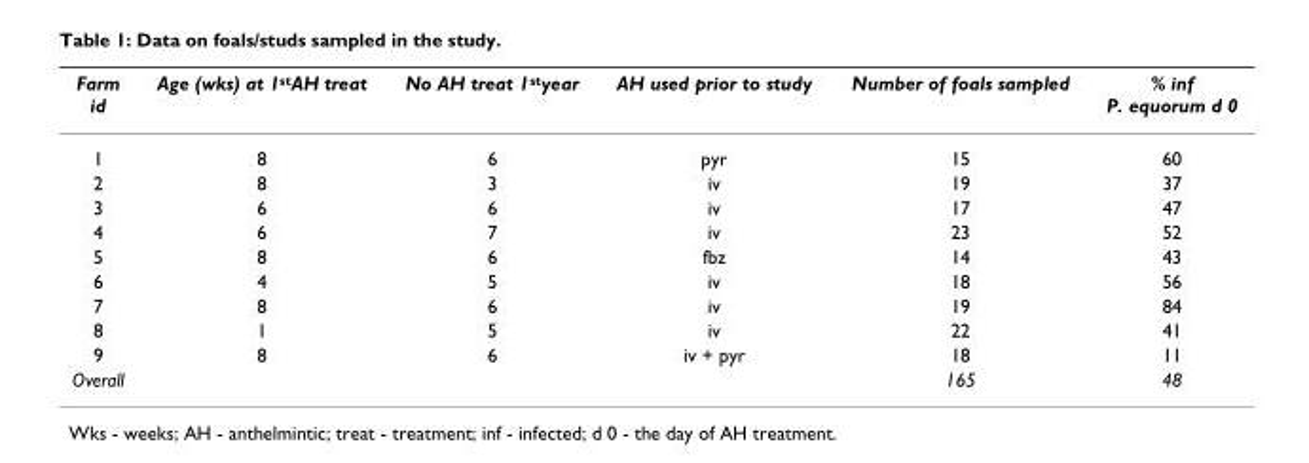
<table><thead><tr><td>Farm id</td><td>Age (wks) at 1<sup>st</sup>AH treat</td><td>No AH treat 1<sup>st</sup>year</td><td>AH used prior to study</td><td>Number of foals sampled</td><td>% inf P. equorum d 0</td></tr></thead><tbody><tr><td>1</td><td>8</td><td>6</td><td>pyr</td><td>15</td><td>60</td></tr><tr><td>2</td><td>8</td><td>3</td><td>iv</td><td>19</td><td>37</td></tr><tr><td>3</td><td>6</td><td>6</td><td>iv</td><td>17</td><td>47</td></tr><tr><td>4</td><td>6</td><td>7</td><td>iv</td><td>23</td><td>52</td></tr><tr><td>5</td><td>8</td><td>6</td><td>fbz</td><td>14</td><td>43</td></tr><tr><td>6</td><td>4</td><td>5</td><td>iv</td><td>18</td><td>56</td></tr><tr><td>7</td><td>8</td><td>6</td><td>iv</td><td>19</td><td>84</td></tr><tr><td>8</td><td>1</td><td>5</td><td>iv</td><td>22</td><td>41</td></tr><tr><td>9</td><td>8</td><td>6</td><td>iv + pyr</td><td>18</td><td>11</td></tr><tr><td>Overall</td><td></td><td></td><td></td><td>165</td><td>48</td></tr></tbody></table>